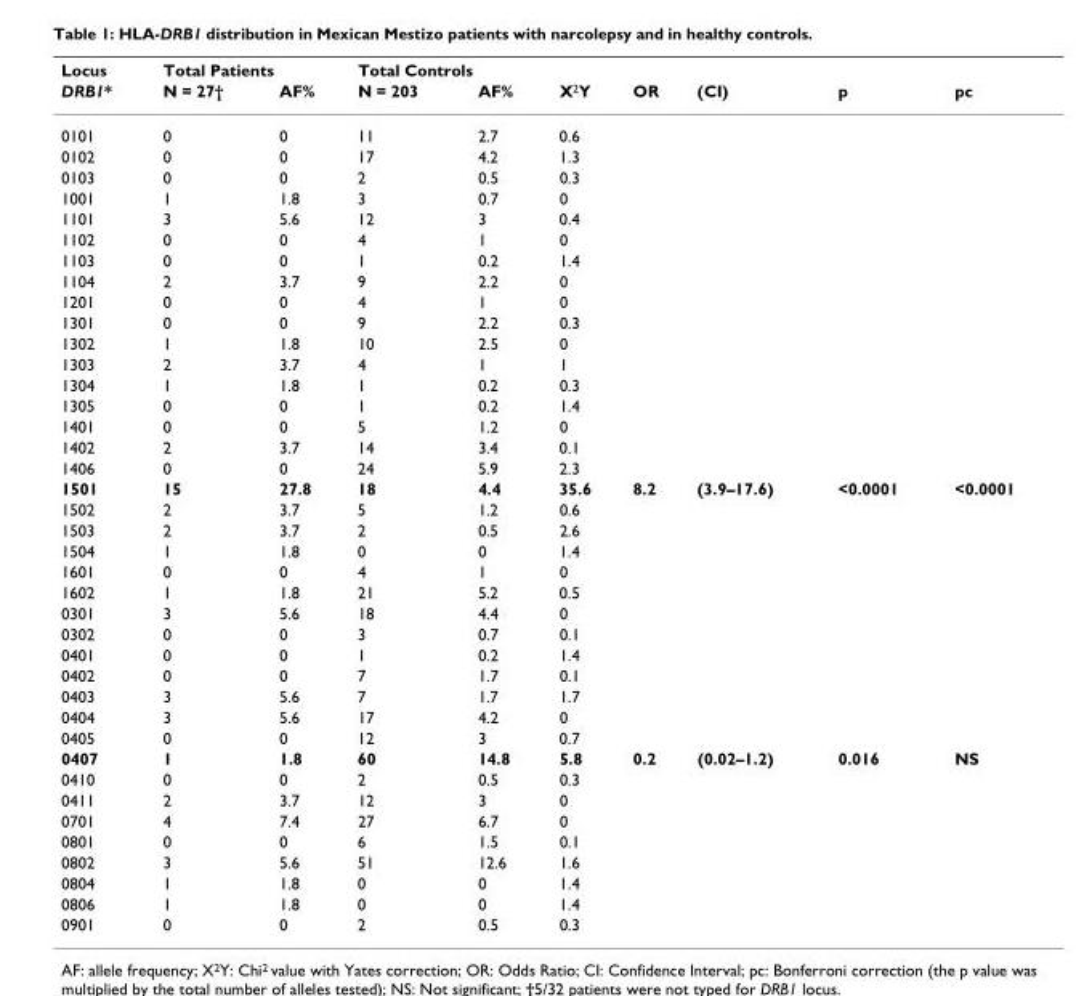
<table><thead><tr><td rowspan="2">Locus DRB1*</td><td colspan="2">Total Patients</td><td colspan="2">Total Controls</td><td rowspan="2">X<sup>2</sup>Y</td><td rowspan="2">OR</td><td rowspan="2">(CI)</td><td rowspan="2">p</td><td rowspan="2">pc</td></tr><tr><td>N = 27†</td><td>AF%</td><td>N = 203</td><td>AF%</td></tr></thead><tbody><tr><td>0101</td><td>0</td><td>0</td><td>11</td><td>2.7</td><td>0.6</td><td></td><td></td><td></td><td></td></tr><tr><td>0102</td><td>0</td><td>0</td><td>17</td><td>4.2</td><td>1.3</td><td></td><td></td><td></td><td></td></tr><tr><td>0103</td><td>0</td><td>0</td><td>2</td><td>0.5</td><td>0.3</td><td></td><td></td><td></td><td></td></tr><tr><td>1001</td><td>1</td><td>1.8</td><td>3</td><td>0.7</td><td>0</td><td></td><td></td><td></td><td></td></tr><tr><td>1101</td><td>3</td><td>5.6</td><td>12</td><td>3</td><td>0.4</td><td></td><td></td><td></td><td></td></tr><tr><td>1102</td><td>0</td><td>0</td><td>4</td><td>1</td><td>0</td><td></td><td></td><td></td><td></td></tr><tr><td>1103</td><td>0</td><td>0</td><td>1</td><td>0.2</td><td>1.4</td><td></td><td></td><td></td><td></td></tr><tr><td>1104</td><td>2</td><td>3.7</td><td>9</td><td>2.2</td><td>0</td><td></td><td></td><td></td><td></td></tr><tr><td>1201</td><td>0</td><td>0</td><td>4</td><td>1</td><td>0</td><td></td><td></td><td></td><td></td></tr><tr><td>1301</td><td>0</td><td>0</td><td>9</td><td>2.2</td><td>0.3</td><td></td><td></td><td></td><td></td></tr><tr><td>1302</td><td>1</td><td>1.8</td><td>10</td><td>2.5</td><td>0</td><td></td><td></td><td></td><td></td></tr><tr><td>1303</td><td>2</td><td>3.7</td><td>4</td><td>1</td><td>1</td><td></td><td></td><td></td><td></td></tr><tr><td>1304</td><td>1</td><td>1.8</td><td>1</td><td>0.2</td><td>0.3</td><td></td><td></td><td></td><td></td></tr><tr><td>1305</td><td>0</td><td>0</td><td>1</td><td>0.2</td><td>1.4</td><td></td><td></td><td></td><td></td></tr><tr><td>1401</td><td>0</td><td>0</td><td>5</td><td>1.2</td><td>0</td><td></td><td></td><td></td><td></td></tr><tr><td>1402</td><td>2</td><td>3.7</td><td>14</td><td>3.4</td><td>0.1</td><td></td><td></td><td></td><td></td></tr><tr><td>1406</td><td>0</td><td>0</td><td>24</td><td>5.9</td><td>2.3</td><td></td><td></td><td></td><td></td></tr><tr><td>1501</td><td>15</td><td>27.8</td><td>18</td><td>4.4</td><td>35.6</td><td>8.2</td><td>(3.9–17.6)</td><td>&lt;0.0001</td><td>&lt;0.0001</td></tr><tr><td>1502</td><td>2</td><td>3.7</td><td>5</td><td>1.2</td><td>0.6</td><td></td><td></td><td></td><td></td></tr><tr><td>1503</td><td>2</td><td>3.7</td><td>2</td><td>0.5</td><td>2.6</td><td></td><td></td><td></td><td></td></tr><tr><td>1504</td><td>1</td><td>1.8</td><td>0</td><td>0</td><td>1.4</td><td></td><td></td><td></td><td></td></tr><tr><td>1601</td><td>0</td><td>0</td><td>4</td><td>1</td><td>0</td><td></td><td></td><td></td><td></td></tr><tr><td>1602</td><td>1</td><td>1.8</td><td>21</td><td>5.2</td><td>0.5</td><td></td><td></td><td></td><td></td></tr><tr><td>0301</td><td>3</td><td>5.6</td><td>18</td><td>4.4</td><td>0</td><td></td><td></td><td></td><td></td></tr><tr><td>0302</td><td>0</td><td>0</td><td>3</td><td>0.7</td><td>0.1</td><td></td><td></td><td></td><td></td></tr><tr><td>0401</td><td>0</td><td>0</td><td>1</td><td>0.2</td><td>1.4</td><td></td><td></td><td></td><td></td></tr><tr><td>0402</td><td>0</td><td>0</td><td>7</td><td>1.7</td><td>0.1</td><td></td><td></td><td></td><td></td></tr><tr><td>0403</td><td>3</td><td>5.6</td><td>7</td><td>1.7</td><td>1.7</td><td></td><td></td><td></td><td></td></tr><tr><td>0404</td><td>3</td><td>5.6</td><td>17</td><td>4.2</td><td>0</td><td></td><td></td><td></td><td></td></tr><tr><td>0405</td><td>0</td><td>0</td><td>12</td><td>3</td><td>0.7</td><td></td><td></td><td></td><td></td></tr><tr><td>0407</td><td>1</td><td>1.8</td><td>60</td><td>14.8</td><td>5.8</td><td>0.2</td><td>(0.02–1.2)</td><td>0.016</td><td>NS</td></tr><tr><td>0410</td><td>0</td><td>0</td><td>2</td><td>0.5</td><td>0.3</td><td></td><td></td><td></td><td></td></tr><tr><td>0411</td><td>2</td><td>3.7</td><td>12</td><td>3</td><td>0</td><td></td><td></td><td></td><td></td></tr><tr><td>0701</td><td>4</td><td>7.4</td><td>27</td><td>6.7</td><td>0</td><td></td><td></td><td></td><td></td></tr><tr><td>0801</td><td>0</td><td>0</td><td>6</td><td>1.5</td><td>0.1</td><td></td><td></td><td></td><td></td></tr><tr><td>0802</td><td>3</td><td>5.6</td><td>51</td><td>12.6</td><td>1.6</td><td></td><td></td><td></td><td></td></tr><tr><td>0804</td><td>1</td><td>1.8</td><td>0</td><td>0</td><td>1.4</td><td></td><td></td><td></td><td></td></tr><tr><td>0806</td><td>1</td><td>1.8</td><td>0</td><td>0</td><td>1.4</td><td></td><td></td><td></td><td></td></tr><tr><td>0901</td><td>0</td><td>0</td><td>2</td><td>0.5</td><td>0.3</td><td></td><td></td><td></td><td></td></tr></tbody></table>